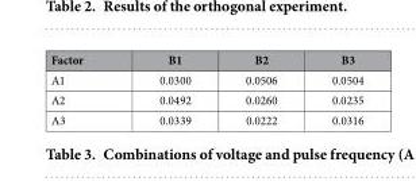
<table><thead><tr><td>Factor</td><td>B1</td><td>B2</td><td>B3</td></tr></thead><tbody><tr><td>A1</td><td>0.0300</td><td>0.0506</td><td>0.0504</td></tr><tr><td>A2</td><td>0.0492</td><td>0.0260</td><td>0.0235</td></tr><tr><td>A3</td><td>0.0339</td><td>0.0222</td><td>0.0316</td></tr></tbody></table>